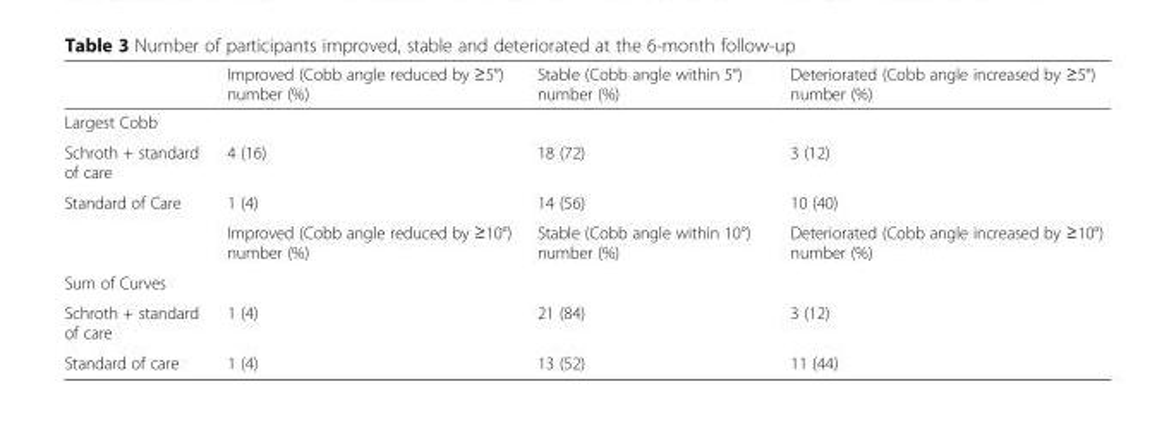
<table><thead><tr><td></td><td>Improved (Cobb angle reduced by ≥5°) number (%)</td><td>Stable (Cobb angle within 5°) number (%)</td><td>Deteriorated (Cobb angle increased by ≥5°) number (%)</td></tr></thead><tbody><tr><td colspan="4">Largest Cobb</td></tr><tr><td>Schroth + standard of care</td><td>4 (16)</td><td>18 (72)</td><td>3 (12)</td></tr><tr><td rowspan="2">Standard of Care</td><td>1 (4)</td><td>14 (56)</td><td>10 (40)</td></tr><tr><td>Improved (Cobb angle reduced by ≥10°) number (%)</td><td>Stable (Cobb angle within 10°) number (%)</td><td>Deteriorated (Cobb angle increased by ≥10°) number (%)</td></tr><tr><td colspan="4">Sum of Curves</td></tr><tr><td>Schroth + standard of care</td><td>1 (4)</td><td>21 (84)</td><td>3 (12)</td></tr><tr><td>Standard of care</td><td>1 (4)</td><td>13 (52)</td><td>11 (44)</td></tr></tbody></table>